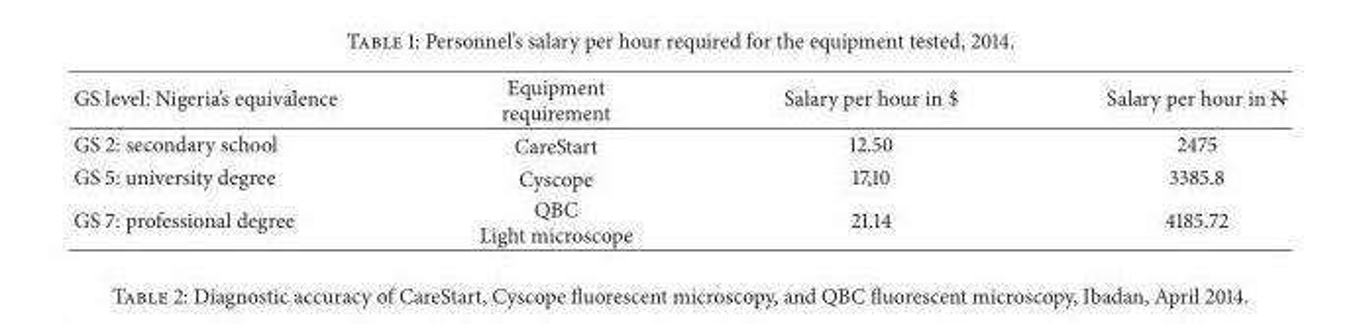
<table><thead><tr><td>GS level: Nigeria’s equivalence</td><td>Equipment requirement</td><td>Salary per hour in $</td><td>Salary per hour in N</td></tr></thead><tbody><tr><td>GS 2: secondary school</td><td>CareStart</td><td>12.50</td><td>2475</td></tr><tr><td>GS 5: university degree</td><td>Cyscope</td><td>17,10</td><td>3385.8</td></tr><tr><td>GS 7: professional degree</td><td>QBC Light microscope</td><td>21.14</td><td>4185.72</td></tr></tbody></table>